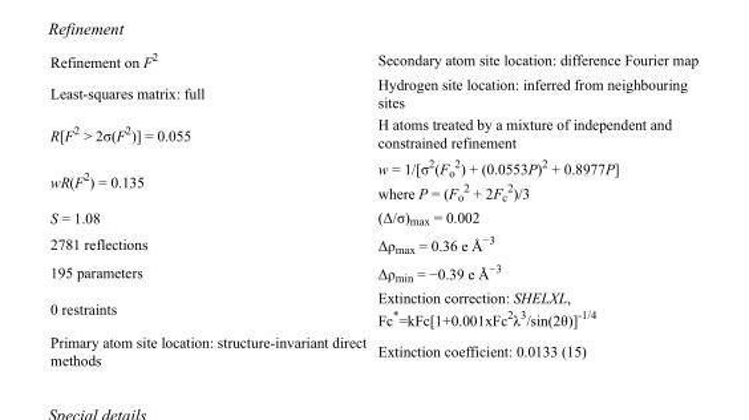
<table><tbody><tr><td>Refinement on F<sup>2</sup></td><td>Secondary atom site location: difference Fourier map</td></tr><tr><td>Least-squares matrix: full</td><td>Hydrogen site location: inferred from neighbouring sites</td></tr><tr><td>R[F<sup>2</sup> &gt; 2σ(F<sup>2</sup>)] = 0.055</td><td>H atoms treated by a mixture of independent and constrained refinement</td></tr><tr><td>wR(F<sup>2</sup>) = 0.135</td><td>w = 1/[σ<sup>2</sup>(F<sub>o</sub> <sup>2</sup>) + (0.0553P)<sup>2</sup> + 0.8977P] where P = (F<sub>o</sub> <sup>2</sup> + 2F<sub>c</sub> <sup>2</sup>)/3</td></tr><tr><td>S = 1.08</td><td>(Δ/σ)<sub>max</sub> = 0.002</td></tr><tr><td>2781 reflections</td><td>Δρ<sub>max</sub> = 0.36 e Å<sup>−3</sup></td></tr><tr><td>195 parameters</td><td>Δρ<sub>min</sub> = −0.39 e Å<sup>−3</sup></td></tr><tr><td>0 restraints</td><td>Extinction correction: SHELXL, Fc*=kFc[1+0.001xFc<sup>2</sup>λ<sup>3</sup>/sin(2θ)]<sup>-1/4</sup></td></tr><tr><td>Primary atom site location: structure-invariant direct methods</td><td>Extinction coefficient: 0.0133 (15)</td></tr></tbody></table>